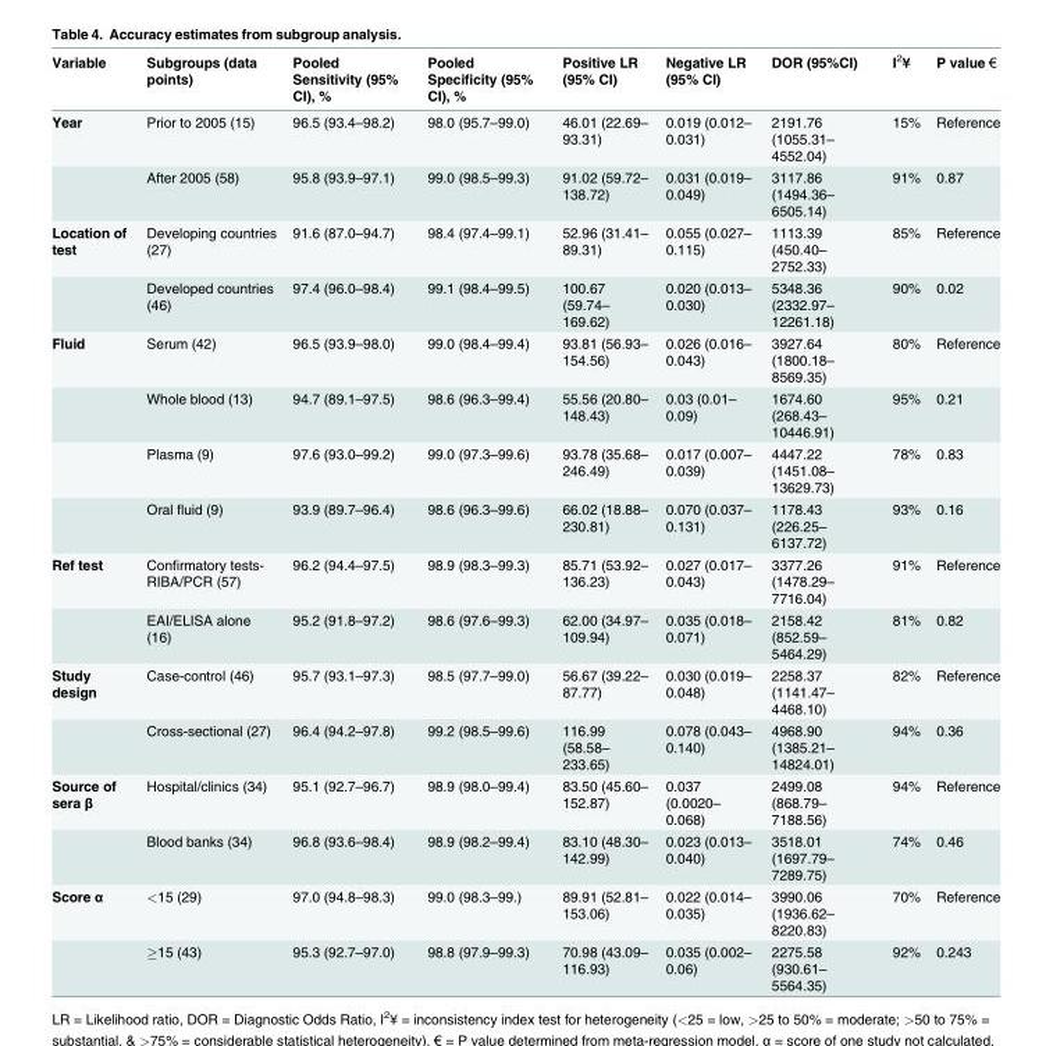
<table><thead><tr><td>Variable</td><td>Subgroups (data points)</td><td>Pooled Sensitivity (95% CI), %</td><td>Pooled Specificity (95% CI), %</td><td>Positive LR (95% CI)</td><td>Negative LR (95% CI)</td><td>DOR (95%CI)</td><td>I<sup>2</sup>¥</td><td>P value €</td></tr></thead><tbody><tr><td rowspan="2">Year</td><td>Prior to 2005 (15)</td><td>96.5 (93.4–98.2)</td><td>98.0 (95.7–99.0)</td><td>46.01 (22.69– 93.31)</td><td>0.019 (0.012– 0.031)</td><td>2191.76 (1055.31– 4552.04)</td><td>15%</td><td>Reference</td></tr><tr><td>After 2005 (58)</td><td>95.8 (93.9–97.1)</td><td>99.0 (98.5–99.3)</td><td>91.02 (59.72– 138.72)</td><td>0.031 (0.019– 0.049)</td><td>3117.86 (1494.36– 6505.14)</td><td>91%</td><td>0.87</td></tr><tr><td rowspan="2">Location of test</td><td>Developing countries (27)</td><td>91.6 (87.0–94.7)</td><td>98.4 (97.4–99.1)</td><td>52.96 (31.41– 89.31)</td><td>0.055 (0.027– 0.115)</td><td>1113.39 (450.40– 2752.33)</td><td>85%</td><td>Reference</td></tr><tr><td>Developed countries (46)</td><td>97.4 (96.0–98.4)</td><td>99.1 (98.4–99.5)</td><td>100.67 (59.74– 169.62)</td><td>0.020 (0.013– 0.030)</td><td>5348.36 (2332.97– 12261.18)</td><td>90%</td><td>0.02</td></tr><tr><td rowspan="4">Fluid</td><td>Serum (42)</td><td>96.5 (93.9–98.0)</td><td>99.0 (98.4–99.4)</td><td>93.81 (56.93– 154.56)</td><td>0.026 (0.016– 0.043)</td><td>3927.64 (1800.18– 8569.35)</td><td>80%</td><td>Reference</td></tr><tr><td>Whole blood (13)</td><td>94.7 (89.1–97.5)</td><td>98.6 (96.3–99.4)</td><td>55.56 (20.80– 148.43)</td><td>0.03 (0.01– 0.09)</td><td>1674.60 (268.43– 10446.91)</td><td>95%</td><td>0.21</td></tr><tr><td>Plasma (9)</td><td>97.6 (93.0–99.2)</td><td>99.0 (97.3–99.6)</td><td>93.78 (35.68– 246.49)</td><td>0.017 (0.007– 0.039)</td><td>4447.22 (1451.08– 13629.73)</td><td>78%</td><td>0.83</td></tr><tr><td>Oral fluid (9)</td><td>93.9 (89.7–96.4)</td><td>98.6 (96.3–99.6)</td><td>66.02 (18.88– 230.81)</td><td>0.070 (0.037– 0.131)</td><td>1178.43 (226.25– 6137.72)</td><td>93%</td><td>0.16</td></tr><tr><td rowspan="2">Ref test</td><td>Confirmatory tests- RIBA/PCR (57)</td><td>96.2 (94.4–97.5)</td><td>98.9 (98.3–99.3)</td><td>85.71 (53.92– 136.23)</td><td>0.027 (0.017– 0.043)</td><td>3377.26 (1478.29– 7716.04)</td><td>91%</td><td>Reference</td></tr><tr><td>EAI/ELISA alone (16)</td><td>95.2 (91.8–97.2)</td><td>98.6 (97.6–99.3)</td><td>62.00 (34.97– 109.94)</td><td>0.035 (0.018– 0.071)</td><td>2158.42 (852.59– 5464.29)</td><td>81%</td><td>0.82</td></tr><tr><td rowspan="2">Study design</td><td>Case-control (46)</td><td>95.7 (93.1–97.3)</td><td>98.5 (97.7–99.0)</td><td>56.67 (39.22– 87.77)</td><td>0.030 (0.019– 0.048)</td><td>2258.37 (1141.47– 4468.10)</td><td>82%</td><td>Reference</td></tr><tr><td>Cross-sectional (27)</td><td>96.4 (94.2–97.8)</td><td>99.2 (98.5–99.6)</td><td>116.99 (58.58– 233.65)</td><td>0.078 (0.043– 0.140)</td><td>4968.90 (1385.21– 14824.01)</td><td>94%</td><td>0.36</td></tr><tr><td rowspan="2">Source of sera β</td><td>Hospital/clinics (34)</td><td>95.1 (92.7–96.7)</td><td>98.9 (98.0–99.4)</td><td>83.50 (45.60– 152.87)</td><td>0.037 (0.0020– 0.068)</td><td>2499.08 (868.79– 7188.56)</td><td>94%</td><td>Reference</td></tr><tr><td>Blood banks (34)</td><td>96.8 (93.6–98.4)</td><td>98.9 (98.2–99.4)</td><td>83.10 (48.30– 142.99)</td><td>0.023 (0.013– 0.040)</td><td>3518.01 (1697.79– 7289.75)</td><td>74%</td><td>0.46</td></tr><tr><td rowspan="2">Score α</td><td>&lt;15 (29)</td><td>97.0 (94.8–98.3)</td><td>99.0 (98.3–99.)</td><td>89.91 (52.81– 153.06)</td><td>0.022 (0.014– 0.035)</td><td>3990.06 (1936.62– 8220.83)</td><td>70%</td><td>Reference</td></tr><tr><td>≥15 (43)</td><td>95.3 (92.7–97.0)</td><td>98.8 (97.9–99.3)</td><td>70.98 (43.09– 116.93)</td><td>0.035 (0.002– 0.06)</td><td>2275.58 (930.61– 5564.35)</td><td>92%</td><td>0.243</td></tr></tbody></table>